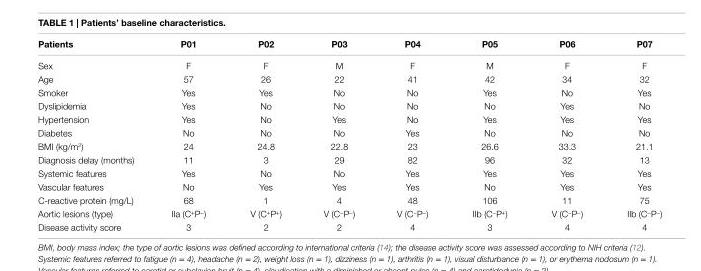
<table><thead><tr><td>Patients</td><td>P01</td><td>P02</td><td>P03</td><td>P04</td><td>P05</td><td>P06</td><td>P07</td></tr></thead><tbody><tr><td>Sex</td><td>F</td><td>F</td><td>M</td><td>F</td><td>M</td><td>F</td><td>F</td></tr><tr><td>Age</td><td>57</td><td>26</td><td>22</td><td>41</td><td>42</td><td>34</td><td>32</td></tr><tr><td>Smoker</td><td>Yes</td><td>Yes</td><td>No</td><td>No</td><td>Yes</td><td>No</td><td>Yes</td></tr><tr><td>Dyslipidemia</td><td>Yes</td><td>No</td><td>No</td><td>No</td><td>No</td><td>Yes</td><td>No</td></tr><tr><td>Hypertension</td><td>Yes</td><td>No</td><td>Yes</td><td>No</td><td>Yes</td><td>Yes</td><td>Yes</td></tr><tr><td>Diabetes</td><td>No</td><td>No</td><td>No</td><td>Yes</td><td>No</td><td>No</td><td>No</td></tr><tr><td>BMI (kg/m<sup>2</sup>)</td><td>24</td><td>24.8</td><td>22.8</td><td>23</td><td>26.6</td><td>33.3</td><td>21.1</td></tr><tr><td>Diagnosis delay (months)</td><td>11</td><td>3</td><td>29</td><td>82</td><td>96</td><td>32</td><td>13</td></tr><tr><td>Systemic features</td><td>Yes</td><td>No</td><td>No</td><td>Yes</td><td>Yes</td><td>Yes</td><td>Yes</td></tr><tr><td>Vascular features</td><td>No</td><td>Yes</td><td>Yes</td><td>Yes</td><td>No</td><td>Yes</td><td>Yes</td></tr><tr><td>C-reactive protein (mg/L)</td><td>68</td><td>1</td><td>4</td><td>48</td><td>106</td><td>11</td><td>75</td></tr><tr><td>Aortic lesions (type)</td><td>IIa (C<sup>+</sup>P<sup>−</sup>)</td><td>V (C<sup>+</sup>P<sup>+</sup>)</td><td>V (C<sup>−</sup>P<sup>−</sup>)</td><td>V (C<sup>−</sup>P<sup>−</sup>)</td><td>IIb (C<sup>−</sup>P<sup>+</sup>)</td><td>V (C<sup>−</sup>P<sup>−</sup>)</td><td>IIb (C<sup>−</sup>P<sup>−</sup>)</td></tr><tr><td>Disease activity score</td><td>3</td><td>2</td><td>2</td><td>4</td><td>3</td><td>4</td><td>4</td></tr></tbody></table>